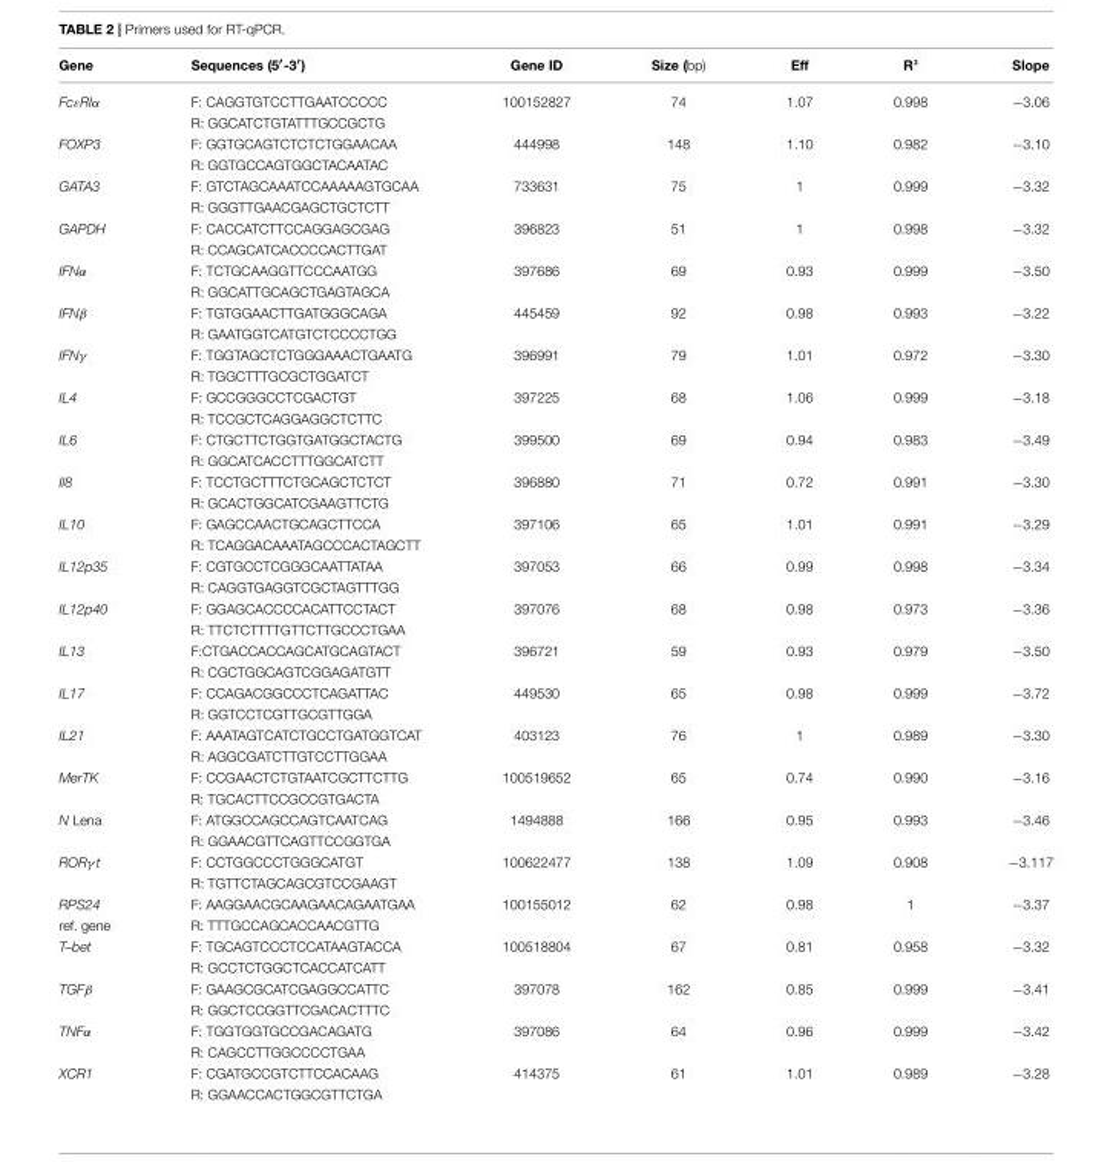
<table><thead><tr><td>Gene</td><td>Sequences (5′-3′)</td><td>Gene ID</td><td>Size (bp)</td><td>Eff</td><td>R²</td><td>Slope</td></tr></thead><tbody><tr><td rowspan="2">FcεRIα</td><td>F: CAGGTGTCCTTGAATCCCCC</td><td>100152827</td><td>74</td><td>1.07</td><td>0.998</td><td>−3.06</td></tr><tr><td>R: GGCATCTGTATTTGCCGCTG</td><td></td><td></td><td></td><td></td><td></td></tr><tr><td rowspan="2">FOXP3</td><td>F: GGTGCAGTCTCTCTGGAACAA</td><td>444998</td><td>148</td><td>1.10</td><td>0.982</td><td>−3.10</td></tr><tr><td>R: GGTGCCAGTGGCTACAATAC</td><td></td><td></td><td></td><td></td><td></td></tr><tr><td rowspan="2">GATA3</td><td>F: GTCTAGCAAATCCAAAAAGTGCAA</td><td>733631</td><td>75</td><td>1</td><td>0.999</td><td>−3.32</td></tr><tr><td>R: GGGTTGAACGAGCTGCTCTT</td><td></td><td></td><td></td><td></td><td></td></tr><tr><td rowspan="2">GAPDH</td><td>F: CACCATCTTCCAGGAGCGAG</td><td>396823</td><td>51</td><td>1</td><td>0.998</td><td>−3.32</td></tr><tr><td>R: CCAGCATCACCCCACTTGAT</td><td></td><td></td><td></td><td></td><td></td></tr><tr><td rowspan="2">IFNα</td><td>F: TCTGCAAGGTTCCCAATGG</td><td>397686</td><td>69</td><td>0.93</td><td>0.999</td><td>−3.50</td></tr><tr><td>R: GGCATTGCAGCTGAGTAGCA</td><td></td><td></td><td></td><td></td><td></td></tr><tr><td rowspan="2">IFNβ</td><td>F: TGTGGAACTTGATGGGCAGA</td><td>445459</td><td>92</td><td>0.98</td><td>0.993</td><td>−3.22</td></tr><tr><td>R: GAATGGTCATGTCTCCCCTGG</td><td></td><td></td><td></td><td></td><td></td></tr><tr><td rowspan="2">IFNγ</td><td>F: TGGTAGCTCTGGGAAACTGAATG</td><td>396991</td><td>79</td><td>1.01</td><td>0.972</td><td>−3.30</td></tr><tr><td>R: TGGCTTTGCGCTGGATCT</td><td></td><td></td><td></td><td></td><td></td></tr><tr><td rowspan="2">IL4</td><td>F: GCCGGGCCTCGACTGT</td><td>397225</td><td>68</td><td>1.06</td><td>0.999</td><td>−3.18</td></tr><tr><td>R: TCCGCTCAGGAGGCTCTTC</td><td></td><td></td><td></td><td></td><td></td></tr><tr><td rowspan="2">IL6</td><td>F: CTGCTTCTGGTGATGGCTACTG</td><td>399500</td><td>69</td><td>0.94</td><td>0.983</td><td>−3.49</td></tr><tr><td>R: GGCATCACCTTTGGCATCTT</td><td></td><td></td><td></td><td></td><td></td></tr><tr><td rowspan="2">Il8</td><td>F: TCCTGCTTTCTGCAGCTCTCT</td><td>396880</td><td>71</td><td>0.72</td><td>0.991</td><td>−3.30</td></tr><tr><td>R: GCACTGGCATCGAAGTTCTG</td><td></td><td></td><td></td><td></td><td></td></tr><tr><td rowspan="2">IL10</td><td>F: GAGCCAACTGCAGCTTCCA</td><td>397106</td><td>65</td><td>1.01</td><td>0.991</td><td>−3.29</td></tr><tr><td>R: TCAGGACAAATAGCCCACTAGCTT</td><td></td><td></td><td></td><td></td><td></td></tr><tr><td rowspan="2">IL12p35</td><td>F: CGTGCCTCGGGCAATTATAA</td><td>397053</td><td>66</td><td>0.99</td><td>0.998</td><td>−3.34</td></tr><tr><td>R: CAGGTGAGGTCGCTAGTTTGG</td><td></td><td></td><td></td><td></td><td></td></tr><tr><td rowspan="2">IL12p40</td><td>F: GGAGCACCCCACATTCCTACT</td><td>397076</td><td>68</td><td>0.98</td><td>0.973</td><td>−3.36</td></tr><tr><td>R: TTCTCTTTTGTTCTTGCCCTGAA</td><td></td><td></td><td></td><td></td><td></td></tr><tr><td rowspan="2">IL13</td><td>F:CTGACCACCAGCATGCAGTACT</td><td>396721</td><td>59</td><td>0.93</td><td>0.979</td><td>−3.50</td></tr><tr><td>R: CGCTGGCAGTCGGAGATGTT</td><td></td><td></td><td></td><td></td><td></td></tr><tr><td rowspan="2">IL17</td><td>F: CCAGACGGCCCTCAGATTAC</td><td>449530</td><td>65</td><td>0.98</td><td>0.999</td><td>−3.72</td></tr><tr><td>R: GGTCCTCGTTGCGTTGGA</td><td></td><td></td><td></td><td></td><td></td></tr><tr><td rowspan="2">IL21</td><td>F: AAATAGTCATCTGCCTGATGGTCAT</td><td>403123</td><td>76</td><td>1</td><td>0.989</td><td>−3.30</td></tr><tr><td>R: AGGCGATCTTGTCCTTGGAA</td><td></td><td></td><td></td><td></td><td></td></tr><tr><td rowspan="2">MerTK</td><td>F: CCGAACTCTGTAATCGCTTCTTG</td><td>100519652</td><td>65</td><td>0.74</td><td>0.990</td><td>−3.16</td></tr><tr><td>R: TGCACTTCCGCCGTGACTA</td><td></td><td></td><td></td><td></td><td></td></tr><tr><td rowspan="2">N Lena</td><td>F: ATGGCCAGCCAGTCAATCAG</td><td>1494888</td><td>166</td><td>0.95</td><td>0.993</td><td>−3.46</td></tr><tr><td>R: GGAACGTTCAGTTCCGGTGA</td><td></td><td></td><td></td><td></td><td></td></tr><tr><td rowspan="2">RORγ t</td><td>F: CCTGGCCCTGGGCATGT</td><td>100622477</td><td>138</td><td>1.09</td><td>0.908</td><td>−3.117</td></tr><tr><td>R: TGTTCTAGCAGCGTCCGAAGT</td><td></td><td></td><td></td><td></td><td></td></tr><tr><td>RPS24</td><td>F: AAGGAACGCAAGAACAGAATGAA</td><td>100155012</td><td>62</td><td>0.98</td><td>1</td><td>−3.37</td></tr><tr><td>ref. gene</td><td>R: TTTGCCAGCACCAACGTTG</td><td></td><td></td><td></td><td></td><td></td></tr><tr><td rowspan="2">T–bet</td><td>F: TGCAGTCCCTCCATAAGTACCA</td><td>100518804</td><td>67</td><td>0.81</td><td>0.958</td><td>−3.32</td></tr><tr><td>R: GCCTCTGGCTCACCATCATT</td><td></td><td></td><td></td><td></td><td></td></tr><tr><td rowspan="2">TGFβ</td><td>F: GAAGCGCATCGAGGCCATTC</td><td>397078</td><td>162</td><td>0.85</td><td>0.999</td><td>−3.41</td></tr><tr><td>R: GGCTCCGGTTCGACACTTTC</td><td></td><td></td><td></td><td></td><td></td></tr><tr><td rowspan="2">TNFα</td><td>F: TGGTGGTGCCGACAGATG</td><td>397086</td><td>64</td><td>0.96</td><td>0.999</td><td>−3.42</td></tr><tr><td>R: CAGCCTTGGCCCCTGAA</td><td></td><td></td><td></td><td></td><td></td></tr><tr><td rowspan="2">XCR1</td><td>F: CGATGCCGTCTTCCACAAG</td><td>414375</td><td>61</td><td>1.01</td><td>0.989</td><td>−3.28</td></tr><tr><td>R: GGAACCACTGGCGTTCTGA</td><td></td><td></td><td></td><td></td><td></td></tr></tbody></table>